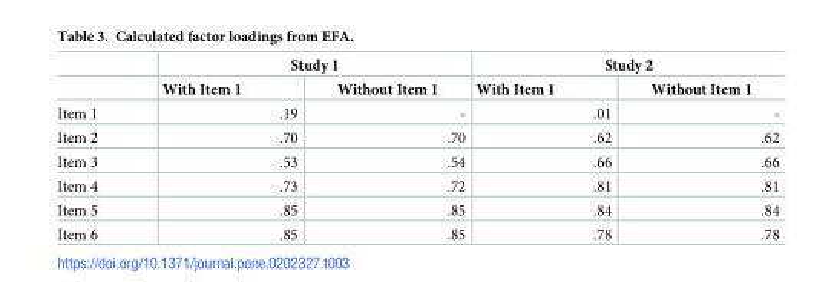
<table><thead><tr><td rowspan="2"></td><td colspan="2">Study 1</td><td colspan="2">Study 2</td></tr><tr><td>With Item 1</td><td>Without Item 1</td><td>With Item 1</td><td>Without Item 1</td></tr></thead><tbody><tr><td>Item 1</td><td>.19</td><td>-</td><td>.01</td><td>-</td></tr><tr><td>Item 2</td><td>.70</td><td>.70</td><td>.62</td><td>.62</td></tr><tr><td>Item 3</td><td>.53</td><td>.54</td><td>.66</td><td>.66</td></tr><tr><td>Item 4</td><td>.73</td><td>.72</td><td>.81</td><td>.81</td></tr><tr><td>Item 5</td><td>.85</td><td>.85</td><td>.84</td><td>.84</td></tr><tr><td>Item 6</td><td>.85</td><td>.85</td><td>.78</td><td>.78</td></tr></tbody></table>